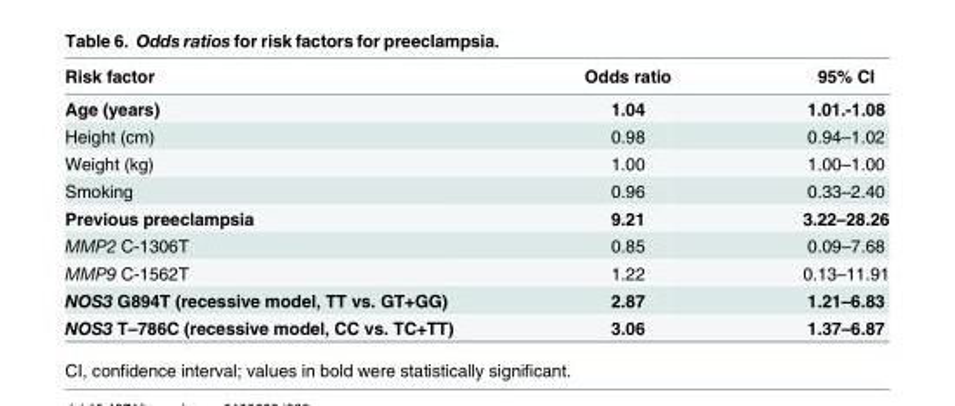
<table><thead><tr><td>Risk factor</td><td>Odds ratio</td><td>95% CI</td></tr></thead><tbody><tr><td>Age (years)</td><td>1.04</td><td>1.01.-1.08</td></tr><tr><td>Height (cm)</td><td>0.98</td><td>0.94–1.02</td></tr><tr><td>Weight (kg)</td><td>1.00</td><td>1.00–1.00</td></tr><tr><td>Smoking</td><td>0.96</td><td>0.33–2.40</td></tr><tr><td>Previous preeclampsia</td><td>9.21</td><td>3.22–28.26</td></tr><tr><td>MMP2 C-1306T</td><td>0.85</td><td>0.09–7.68</td></tr><tr><td>MMP9 C-1562T</td><td>1.22</td><td>0.13–11.91</td></tr><tr><td>NOS3 G894T (recessive model, TT vs. GT+GG)</td><td>2.87</td><td>1.21–6.83</td></tr><tr><td>NOS3 T–786C (recessive model, CC vs. TC+TT)</td><td>3.06</td><td>1.37–6.87</td></tr></tbody></table>